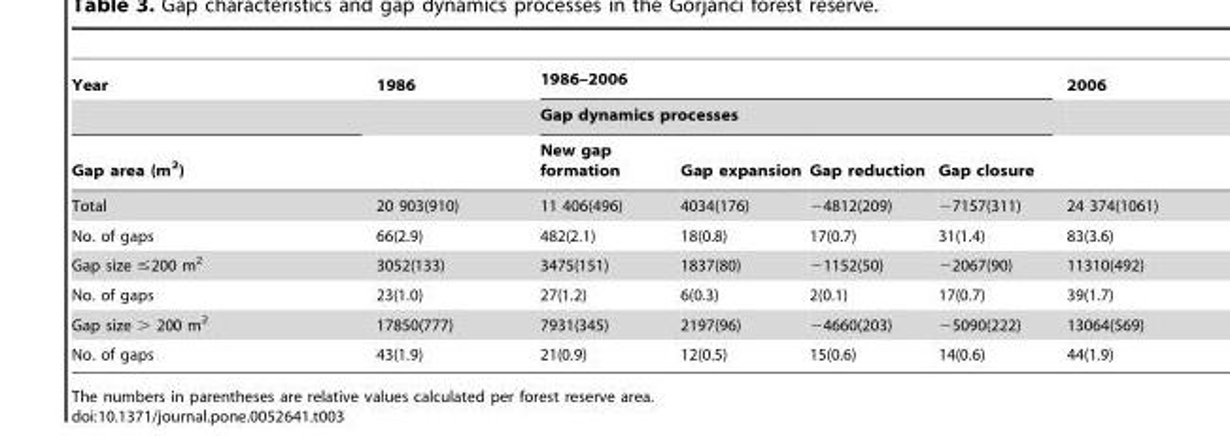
<table><thead><tr><td rowspan="3">Year Gap area (m<sup>2</sup>)</td><td rowspan="3">1986</td><td rowspan="2" colspan="4">1986–2006 Gap dynamics processes</td><td rowspan="3">2006</td></tr><tr></tr><tr><td>New gap formation</td><td>Gap expansion</td><td>Gap reduction</td><td>Gap closure</td></tr></thead><tbody><tr><td>Total</td><td>20 903(910)</td><td>11 406(496)</td><td>4034(176)</td><td>−4812(209)</td><td>−7157(311)</td><td>24 374(1061)</td></tr><tr><td>No. of gaps</td><td>66(2.9)</td><td>482(2.1)</td><td>18(0.8)</td><td>17(0.7)</td><td>31(1.4)</td><td>83(3.6)</td></tr><tr><td>Gap size ≤200 m<sup>2</sup></td><td>3052(133)</td><td>3475(151)</td><td>1837(80)</td><td>−1152(50)</td><td>−2067(90)</td><td>11310(492)</td></tr><tr><td>No. of gaps</td><td>23(1.0)</td><td>27(1.2)</td><td>6(0.3)</td><td>2(0.1)</td><td>17(0.7)</td><td>39(1.7)</td></tr><tr><td>Gap size &gt; 200 m<sup>2</sup></td><td>17850(777)</td><td>7931(345)</td><td>2197(96)</td><td>−4660(203)</td><td>−5090(222)</td><td>13064(569)</td></tr><tr><td>No. of gaps</td><td>43(1.9)</td><td>21(0.9)</td><td>12(0.5)</td><td>15(0.6)</td><td>14(0.6)</td><td>44(1.9)</td></tr></tbody></table>